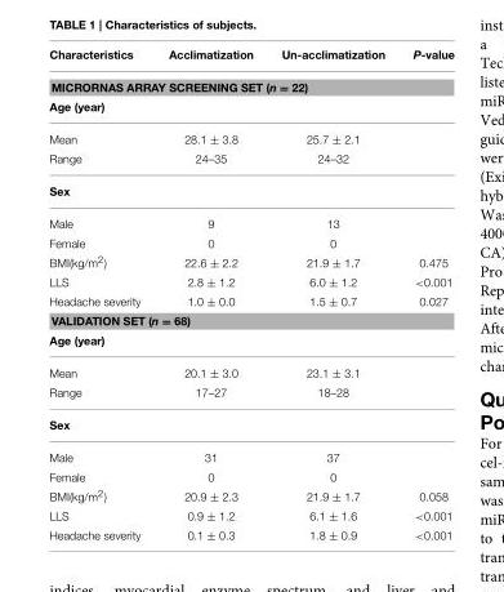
<table><thead><tr><td>Characteristics</td><td>Acclimatization</td><td>Un-acclimatization</td><td>P-value</td></tr></thead><tbody><tr><td colspan="4">MICRORNAS ARRAY SCREENING SET (n = 22)</td></tr><tr><td colspan="4">Age (year)</td></tr><tr><td>Mean</td><td>28.1 ± 3.8</td><td>25.7 ± 2.1</td><td></td></tr><tr><td>Range</td><td>24–35</td><td>24–32</td><td></td></tr><tr><td colspan="4">Sex</td></tr><tr><td>Male</td><td>9</td><td>13</td><td></td></tr><tr><td>Female</td><td>0</td><td>0</td><td></td></tr><tr><td>BMI(kg/m<sup>2</sup>)</td><td>22.6 ± 2.2</td><td>21.9 ± 1.7</td><td>0.475</td></tr><tr><td>LLS</td><td>2.8 ± 1.2</td><td>6.0 ± 1.2</td><td>&lt;0.001</td></tr><tr><td>Headache severity</td><td>1.0 ± 0.0</td><td>1.5 ± 0.7</td><td>0.027</td></tr><tr><td colspan="4">VALIDATION SET (n = 68)</td></tr><tr><td colspan="4">Age (year)</td></tr><tr><td>Mean</td><td>20.1 ± 3.0</td><td>23.1 ± 3.1</td><td></td></tr><tr><td>Range</td><td>17–27</td><td>18–28</td><td></td></tr><tr><td colspan="4">Sex</td></tr><tr><td>Male</td><td>31</td><td>37</td><td></td></tr><tr><td>Female</td><td>0</td><td>0</td><td></td></tr><tr><td>BMI(kg/m<sup>2</sup>)</td><td>20.9 ± 2.3</td><td>21.9 ± 1.7</td><td>0.058</td></tr><tr><td>LLS</td><td>0.9 ± 1.2</td><td>6.1 ± 1.6</td><td>&lt;0.001</td></tr><tr><td>Headache severity</td><td>0.1 ± 0.3</td><td>1.8 ± 0.9</td><td>&lt;0.001</td></tr></tbody></table>